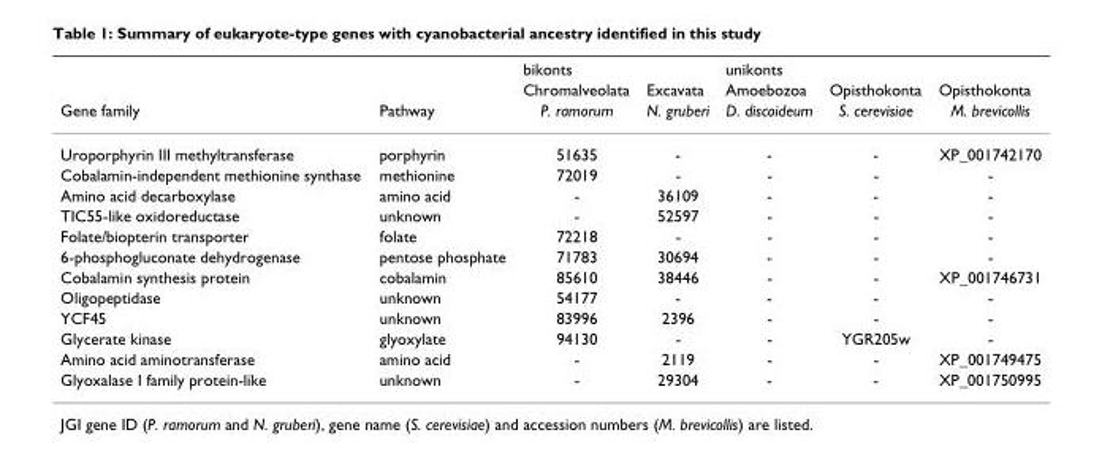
<table><thead><tr><td rowspan="3">Gene family</td><td rowspan="3">Pathway</td><td rowspan="3">bikonts Chromalveolata P. ramorum</td><td rowspan="3">Excavata N. gruberi</td><td rowspan="3">unikonts Amoebozoa D. discoideum</td><td rowspan="3">Opisthokonta S. cerevisiae</td><td rowspan="3">Opisthokonta M. brevicollis</td></tr><tr></tr><tr></tr></thead><tbody><tr><td>Uroporphyrin III methyltransferase</td><td>porphyrin</td><td>51635</td><td>-</td><td>-</td><td>-</td><td>XP_001742170</td></tr><tr><td>Cobalamin-independent methionine synthase</td><td>methionine</td><td>72019</td><td>-</td><td>-</td><td>-</td><td>-</td></tr><tr><td>Amino acid decarboxylase</td><td>amino acid</td><td>-</td><td>36109</td><td>-</td><td>-</td><td>-</td></tr><tr><td>TIC55-like oxidoreductase</td><td>unknown</td><td>-</td><td>52597</td><td>-</td><td>-</td><td>-</td></tr><tr><td>Folate/biopterin transporter</td><td>folate</td><td>72218</td><td>-</td><td>-</td><td>-</td><td>-</td></tr><tr><td>6-phosphogluconate dehydrogenase</td><td>pentose phosphate</td><td>71783</td><td>30694</td><td>-</td><td>-</td><td>-</td></tr><tr><td>Cobalamin synthesis protein</td><td>cobalamin</td><td>85610</td><td>38446</td><td>-</td><td>-</td><td>XP_001746731</td></tr><tr><td>Oligopeptidase</td><td>unknown</td><td>54177</td><td>-</td><td>-</td><td>-</td><td>-</td></tr><tr><td>YCF45</td><td>unknown</td><td>83996</td><td>2396</td><td>-</td><td>-</td><td>-</td></tr><tr><td>Glycerate kinase</td><td>glyoxylate</td><td>94130</td><td>-</td><td>-</td><td>YGR205w</td><td>-</td></tr><tr><td>Amino acid aminotransferase</td><td>amino acid</td><td>-</td><td>2119</td><td>-</td><td>-</td><td>XP_001749475</td></tr><tr><td>Glyoxalase I family protein-like</td><td>unknown</td><td>-</td><td>29304</td><td>-</td><td>-</td><td>XP_001750995</td></tr></tbody></table>